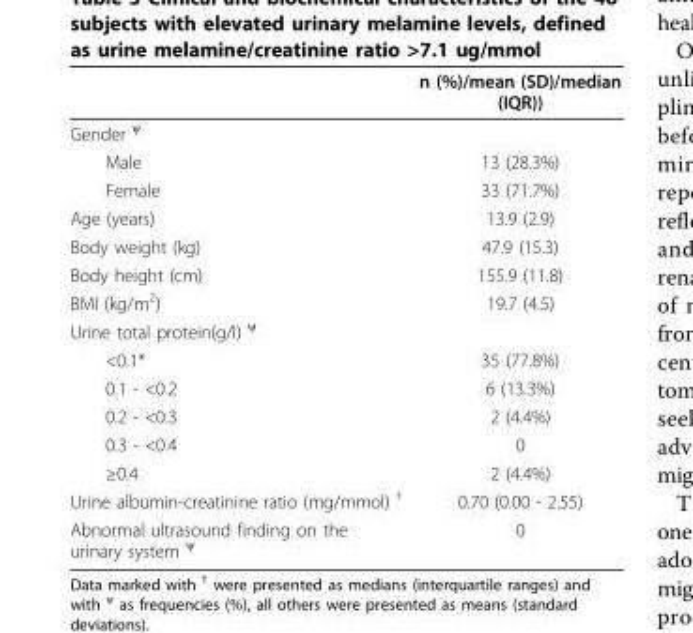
<table><thead><tr><td></td><td>n (%)/mean (SD)/median (IQR))</td></tr></thead><tbody><tr><td colspan="2">Gender <sup>ψ</sup></td></tr><tr><td>Male</td><td>13 (28.3%)</td></tr><tr><td>Female</td><td>33 (71.7%)</td></tr><tr><td>Age (years)</td><td>13.9 (2.9)</td></tr><tr><td>Body weight (kg)</td><td>47.9 (15.3)</td></tr><tr><td>Body height (cm)</td><td>155.9 (11.8)</td></tr><tr><td>BMI (kg/m<sup>2</sup>)</td><td>19.7 (4.5)</td></tr><tr><td colspan="2">Urine total protein(g/l) <sup>ψ</sup></td></tr><tr><td>&lt;0.1*</td><td>35 (77.8%)</td></tr><tr><td>0.1 - &lt;0.2</td><td>6 (13.3%)</td></tr><tr><td>0.2 - &lt;0.3</td><td>2 (4.4%)</td></tr><tr><td>0.3 - &lt;0.4</td><td>0</td></tr><tr><td>≥0.4</td><td>2 (4.4%)</td></tr><tr><td>Urine albumin-creatinine ratio (mg/mmol) <sup>†</sup></td><td>0.70 (0.00 - 2.55)</td></tr><tr><td>Abnormal ultrasound finding on the urinary system <sup>ψ</sup></td><td>0</td></tr></tbody></table>